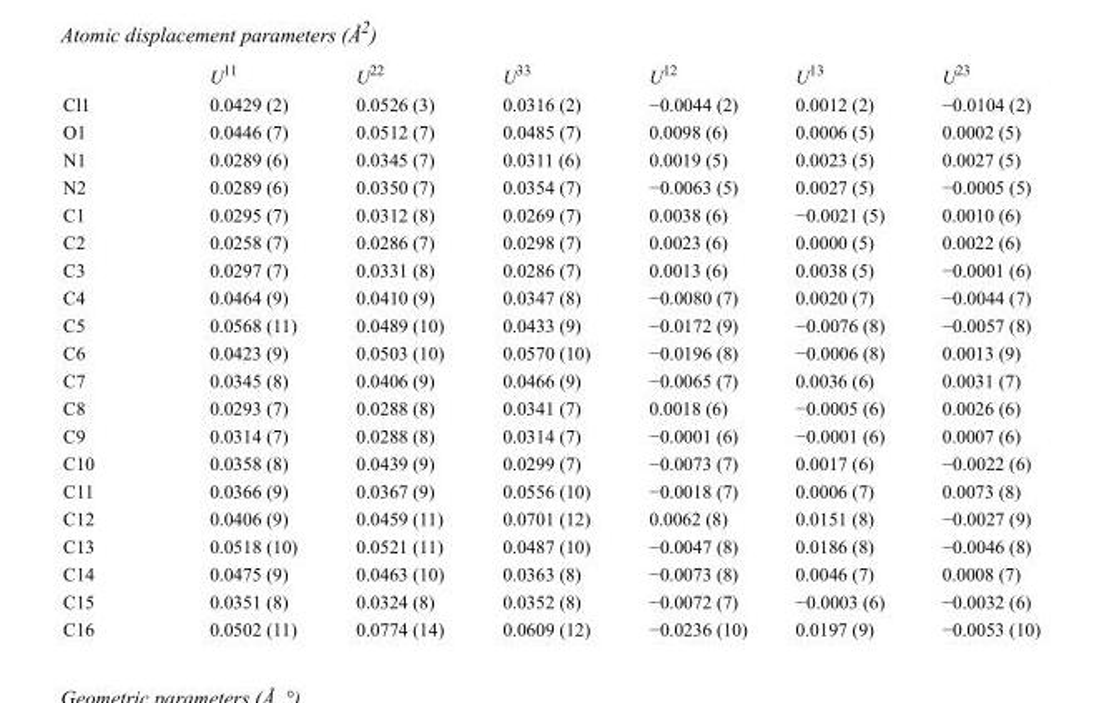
<table><thead><tr><td></td><td>U<sup>11</sup></td><td>U<sup>22</sup></td><td>U<sup>33</sup></td><td>U<sup>12</sup></td><td>U<sup>13</sup></td><td>U<sup>23</sup></td></tr></thead><tbody><tr><td>Cl1</td><td>0.0429 (2)</td><td>0.0526 (3)</td><td>0.0316 (2)</td><td>−0.0044 (2)</td><td>0.0012 (2)</td><td>−0.0104 (2)</td></tr><tr><td>O1</td><td>0.0446 (7)</td><td>0.0512 (7)</td><td>0.0485 (7)</td><td>0.0098 (6)</td><td>0.0006 (5)</td><td>0.0002 (5)</td></tr><tr><td>N1</td><td>0.0289 (6)</td><td>0.0345 (7)</td><td>0.0311 (6)</td><td>0.0019 (5)</td><td>0.0023 (5)</td><td>0.0027 (5)</td></tr><tr><td>N2</td><td>0.0289 (6)</td><td>0.0350 (7)</td><td>0.0354 (7)</td><td>−0.0063 (5)</td><td>0.0027 (5)</td><td>−0.0005 (5)</td></tr><tr><td>C1</td><td>0.0295 (7)</td><td>0.0312 (8)</td><td>0.0269 (7)</td><td>0.0038 (6)</td><td>−0.0021 (5)</td><td>0.0010 (6)</td></tr><tr><td>C2</td><td>0.0258 (7)</td><td>0.0286 (7)</td><td>0.0298 (7)</td><td>0.0023 (6)</td><td>0.0000 (5)</td><td>0.0022 (6)</td></tr><tr><td>C3</td><td>0.0297 (7)</td><td>0.0331 (8)</td><td>0.0286 (7)</td><td>0.0013 (6)</td><td>0.0038 (5)</td><td>−0.0001 (6)</td></tr><tr><td>C4</td><td>0.0464 (9)</td><td>0.0410 (9)</td><td>0.0347 (8)</td><td>−0.0080 (7)</td><td>0.0020 (7)</td><td>−0.0044 (7)</td></tr><tr><td>C5</td><td>0.0568 (11)</td><td>0.0489 (10)</td><td>0.0433 (9)</td><td>−0.0172 (9)</td><td>−0.0076 (8)</td><td>−0.0057 (8)</td></tr><tr><td>C6</td><td>0.0423 (9)</td><td>0.0503 (10)</td><td>0.0570 (10)</td><td>−0.0196 (8)</td><td>−0.0006 (8)</td><td>0.0013 (9)</td></tr><tr><td>C7</td><td>0.0345 (8)</td><td>0.0406 (9)</td><td>0.0466 (9)</td><td>−0.0065 (7)</td><td>0.0036 (6)</td><td>0.0031 (7)</td></tr><tr><td>C8</td><td>0.0293 (7)</td><td>0.0288 (8)</td><td>0.0341 (7)</td><td>0.0018 (6)</td><td>−0.0005 (6)</td><td>0.0026 (6)</td></tr><tr><td>C9</td><td>0.0314 (7)</td><td>0.0288 (8)</td><td>0.0314 (7)</td><td>−0.0001 (6)</td><td>−0.0001 (6)</td><td>0.0007 (6)</td></tr><tr><td>C10</td><td>0.0358 (8)</td><td>0.0439 (9)</td><td>0.0299 (7)</td><td>−0.0073 (7)</td><td>0.0017 (6)</td><td>−0.0022 (6)</td></tr><tr><td>C11</td><td>0.0366 (9)</td><td>0.0367 (9)</td><td>0.0556 (10)</td><td>−0.0018 (7)</td><td>0.0006 (7)</td><td>0.0073 (8)</td></tr><tr><td>C12</td><td>0.0406 (9)</td><td>0.0459 (11)</td><td>0.0701 (12)</td><td>0.0062 (8)</td><td>0.0151 (8)</td><td>−0.0027 (9)</td></tr><tr><td>C13</td><td>0.0518 (10)</td><td>0.0521 (11)</td><td>0.0487 (10)</td><td>−0.0047 (8)</td><td>0.0186 (8)</td><td>−0.0046 (8)</td></tr><tr><td>C14</td><td>0.0475 (9)</td><td>0.0463 (10)</td><td>0.0363 (8)</td><td>−0.0073 (8)</td><td>0.0046 (7)</td><td>0.0008 (7)</td></tr><tr><td>C15</td><td>0.0351 (8)</td><td>0.0324 (8)</td><td>0.0352 (8)</td><td>−0.0072 (7)</td><td>−0.0003 (6)</td><td>−0.0032 (6)</td></tr><tr><td>C16</td><td>0.0502 (11)</td><td>0.0774 (14)</td><td>0.0609 (12)</td><td>−0.0236 (10)</td><td>0.0197 (9)</td><td>−0.0053 (10)</td></tr></tbody></table>